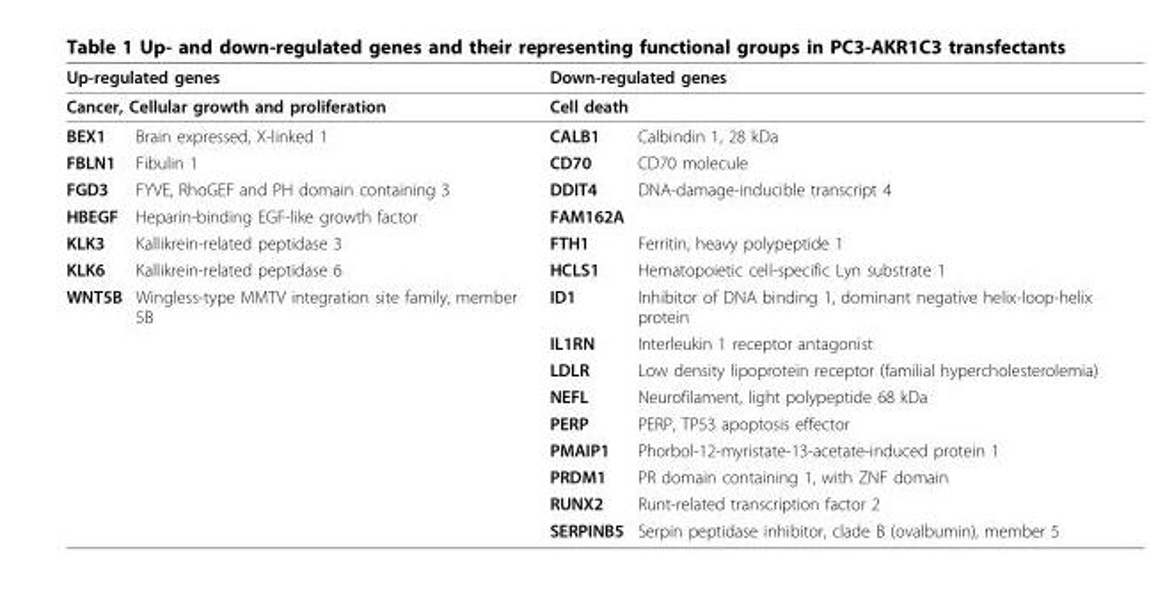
<table><thead><tr><td rowspan="2" colspan="2">Up-regulated genes Cancer, Cellular growth and proliferation</td><td rowspan="2" colspan="2">Down-regulated genes Cell death</td></tr><tr></tr><tr><td>BEX1</td><td>Brain expressed, X-linked 1</td><td>CALB1</td><td>Calbindin 1, 28 kDa</td></tr></thead><tbody><tr><td>FBLN1</td><td>Fibulin 1</td><td>CD70</td><td>CD70 molecule</td></tr><tr><td>FGD3</td><td>FYVE, RhoGEF and PH domain containing 3</td><td>DDIT4</td><td>DNA-damage-inducible transcript 4</td></tr><tr><td>HBEGF</td><td>Heparin-binding EGF-like growth factor</td><td>FAM162A</td><td></td></tr><tr><td>KLK3</td><td>Kallikrein-related peptidase 3</td><td>FTH1</td><td>Ferritin, heavy polypeptide 1</td></tr><tr><td>KLK6</td><td>Kallikrein-related peptidase 6</td><td>HCLS1</td><td>Hematopoietic cell-specific Lyn substrate 1</td></tr><tr><td rowspan="9">WNT5B</td><td>Wingless-type MMTV integration site family, member 5B</td><td>ID1</td><td>Inhibitor of DNA binding 1, dominant negative helix-loop-helix protein</td></tr><tr><td></td><td>IL1RN</td><td>Interleukin 1 receptor antagonist</td></tr><tr><td></td><td>LDLR</td><td>Low density lipoprotein receptor (familial hypercholesterolemia)</td></tr><tr><td></td><td>NEFL</td><td>Neurofilament, light polypeptide 68 kDa</td></tr><tr><td></td><td>PERP</td><td>PERP, TP53 apoptosis effector</td></tr><tr><td></td><td>PMAIP1</td><td>Phorbol-12-myristate-13-acetate-induced protein 1</td></tr><tr><td></td><td>PRDM1</td><td>PR domain containing 1, with ZNF domain</td></tr><tr><td></td><td>RUNX2</td><td>Runt-related transcription factor 2</td></tr><tr><td></td><td>SERPINB5</td><td>Serpin peptidase inhibitor, clade B (ovalbumin), member 5</td></tr></tbody></table>